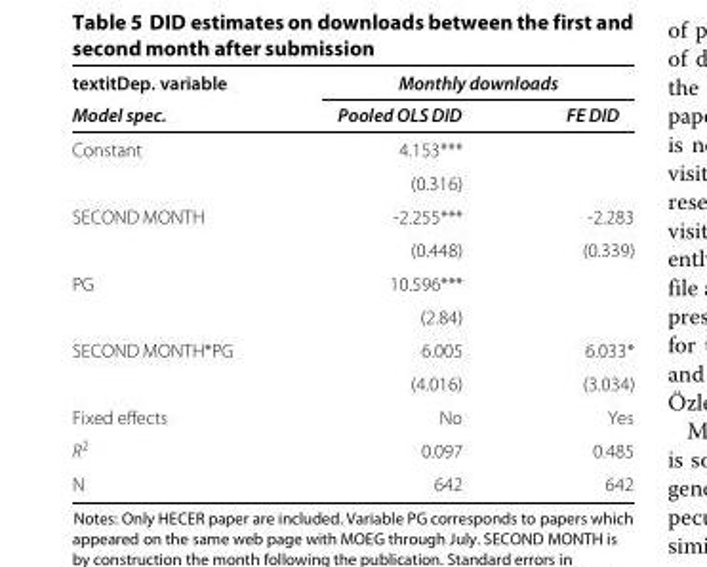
<table><thead><tr><td rowspan="2">textitDep. variable Model spec.</td><td colspan="2">Monthly downloads</td></tr><tr><td>Pooled OLS DID</td><td>FE DID</td></tr></thead><tbody><tr><td rowspan="2">Constant</td><td>4.153***</td><td></td></tr><tr><td>(0.316)</td><td></td></tr><tr><td rowspan="2">SECOND MONTH</td><td>-2.255***</td><td>-2.283</td></tr><tr><td>(0.448)</td><td>(0.339)</td></tr><tr><td rowspan="2">PG</td><td>10.596***</td><td></td></tr><tr><td>(2.84)</td><td></td></tr><tr><td rowspan="2">SECOND MONTH*PG</td><td>6.005</td><td>6.033*</td></tr><tr><td>(4.016)</td><td>(3.034)</td></tr><tr><td>Fixed effects</td><td>No</td><td>Yes</td></tr><tr><td>R<sup>2</sup></td><td>0.097</td><td>0.485</td></tr><tr><td>N</td><td>642</td><td>642</td></tr></tbody></table>